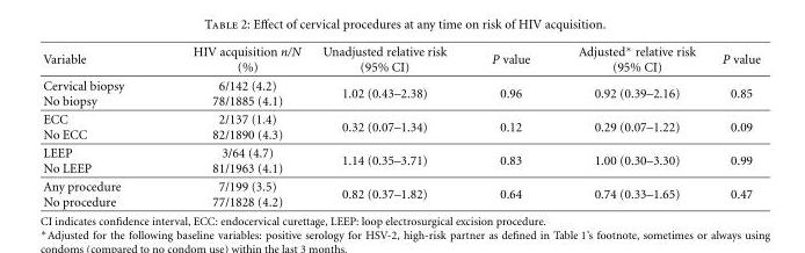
<table><thead><tr><td>Variable</td><td>HIV acquisition n/N (%)</td><td>Unadjusted relative risk (95% CI)</td><td>P value</td><td>Adjusted∗ relative risk (95% CI)</td><td>P value</td></tr></thead><tbody><tr><td>Cervical biopsy No biopsy</td><td>6/142 (4.2) 78/1885 (4.1)</td><td>1.02 (0.43–2.38)</td><td>0.96</td><td>0.92 (0.39–2.16)</td><td>0.85</td></tr><tr><td>ECC No ECC</td><td>2/137 (1.4) 82/1890 (4.3)</td><td>0.32 (0.07–1.34)</td><td>0.12</td><td>0.29 (0.07–1.22)</td><td>0.09</td></tr><tr><td>LEEP No LEEP</td><td>3/64 (4.7) 81/1963 (4.1)</td><td>1.14 (0.35–3.71)</td><td>0.83</td><td>1.00 (0.30–3.30)</td><td>0.99</td></tr><tr><td>Any procedure No procedure</td><td>7/199 (3.5) 77/1828 (4.2)</td><td>0.82 (0.37–1.82)</td><td>0.64</td><td>0.74 (0.33–1.65)</td><td>0.47</td></tr></tbody></table>